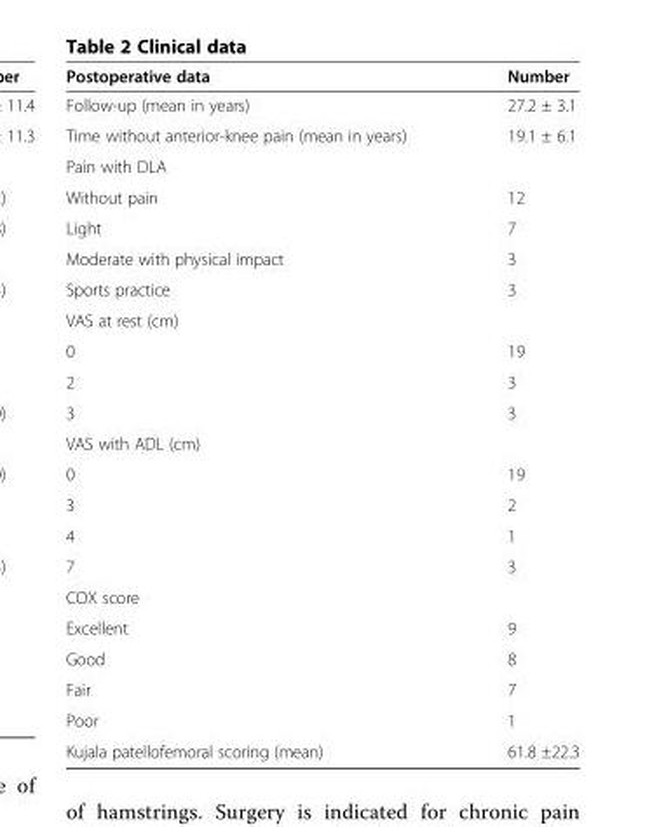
<table><thead><tr><td>Postoperative data</td><td>Number</td></tr></thead><tbody><tr><td>Follow-up (mean in years)</td><td>27.2 ± 3.1</td></tr><tr><td>Time without anterior-knee pain (mean in years)</td><td>19.1 ± 6.1</td></tr><tr><td colspan="2">Pain with DLA</td></tr><tr><td>Without pain</td><td>12</td></tr><tr><td>Light</td><td>7</td></tr><tr><td>Moderate with physical impact</td><td>3</td></tr><tr><td>Sports practice</td><td>3</td></tr><tr><td colspan="2">VAS at rest (cm)</td></tr><tr><td>0</td><td>19</td></tr><tr><td>2</td><td>3</td></tr><tr><td>3</td><td>3</td></tr><tr><td colspan="2">VAS with ADL (cm)</td></tr><tr><td>0</td><td>19</td></tr><tr><td>3</td><td>2</td></tr><tr><td>4</td><td>1</td></tr><tr><td>7</td><td>3</td></tr><tr><td colspan="2">COX score</td></tr><tr><td>Excellent</td><td>9</td></tr><tr><td>Good</td><td>8</td></tr><tr><td>Fair</td><td>7</td></tr><tr><td>Poor</td><td>1</td></tr><tr><td>Kujala patellofemoral scoring (mean)</td><td>61.8 ±22.3</td></tr></tbody></table>